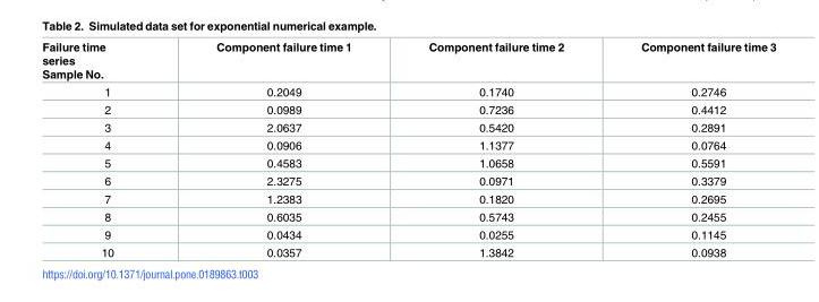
<table><thead><tr><td>Failure time series Sample No.</td><td>Component failure time 1</td><td>Component failure time 2</td><td>Component failure time 3</td></tr></thead><tbody><tr><td>1</td><td>0.2049</td><td>0.1740</td><td>0.2746</td></tr><tr><td>2</td><td>0.0989</td><td>0.7236</td><td>0.4412</td></tr><tr><td>3</td><td>2.0637</td><td>0.5420</td><td>0.2891</td></tr><tr><td>4</td><td>0.0906</td><td>1.1377</td><td>0.0764</td></tr><tr><td>5</td><td>0.4583</td><td>1.0658</td><td>0.5591</td></tr><tr><td>6</td><td>2.3275</td><td>0.0971</td><td>0.3379</td></tr><tr><td>7</td><td>1.2383</td><td>0.1820</td><td>0.2695</td></tr><tr><td>8</td><td>0.6035</td><td>0.5743</td><td>0.2455</td></tr><tr><td>9</td><td>0.0434</td><td>0.0255</td><td>0.1145</td></tr><tr><td>10</td><td>0.0357</td><td>1.3842</td><td>0.0938</td></tr></tbody></table>